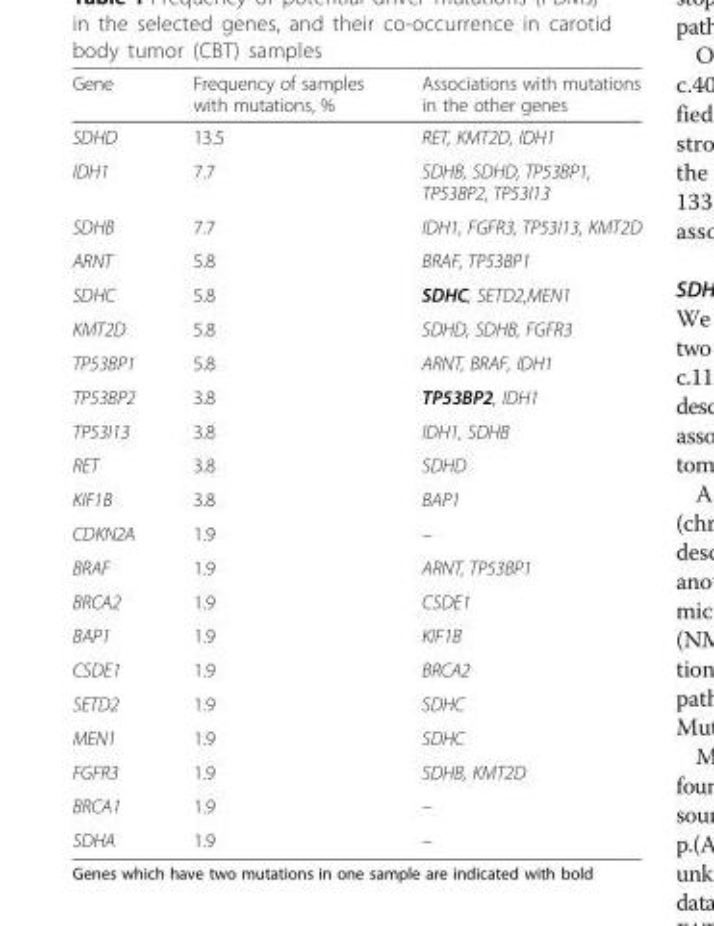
<table><thead><tr><td>Gene</td><td>Frequency of samples with mutations, %</td><td>Associations with mutations in the other genes</td></tr></thead><tbody><tr><td>SDHD</td><td>13.5</td><td>RET, KMT2D, IDH1</td></tr><tr><td>IDH1</td><td>7.7</td><td>SDHB, SDHD, TP53BP1, TP53BP2, TP53I13</td></tr><tr><td>SDHB</td><td>7.7</td><td>IDH1, FGFR3, TP53I13, KMT2D</td></tr><tr><td>ARNT</td><td>5.8</td><td>BRAF, TP53BP1</td></tr><tr><td>SDHC</td><td>5.8</td><td>SDHC, SETD2,MEN1</td></tr><tr><td>KMT2D</td><td>5.8</td><td>SDHD, SDHB, FGFR3</td></tr><tr><td>TP53BP1</td><td>5.8</td><td>ARNT, BRAF, IDH1</td></tr><tr><td>TP53BP2</td><td>3.8</td><td>TP53BP2, IDH1</td></tr><tr><td>TP53I13</td><td>3.8</td><td>IDH1, SDHB</td></tr><tr><td>RET</td><td>3.8</td><td>SDHD</td></tr><tr><td>KIF1B</td><td>3.8</td><td>BAP1</td></tr><tr><td>CDKN2A</td><td>1.9</td><td>–</td></tr><tr><td>BRAF</td><td>1.9</td><td>ARNT, TP53BP1</td></tr><tr><td>BRCA2</td><td>1.9</td><td>CSDE1</td></tr><tr><td>BAP1</td><td>1.9</td><td>KIF1B</td></tr><tr><td>CSDE1</td><td>1.9</td><td>BRCA2</td></tr><tr><td>SETD2</td><td>1.9</td><td>SDHC</td></tr><tr><td>MEN1</td><td>1.9</td><td>SDHC</td></tr><tr><td>FGFR3</td><td>1.9</td><td>SDHB, KMT2D</td></tr><tr><td>BRCA1</td><td>1.9</td><td>–</td></tr><tr><td>SDHA</td><td>1.9</td><td>–</td></tr></tbody></table>